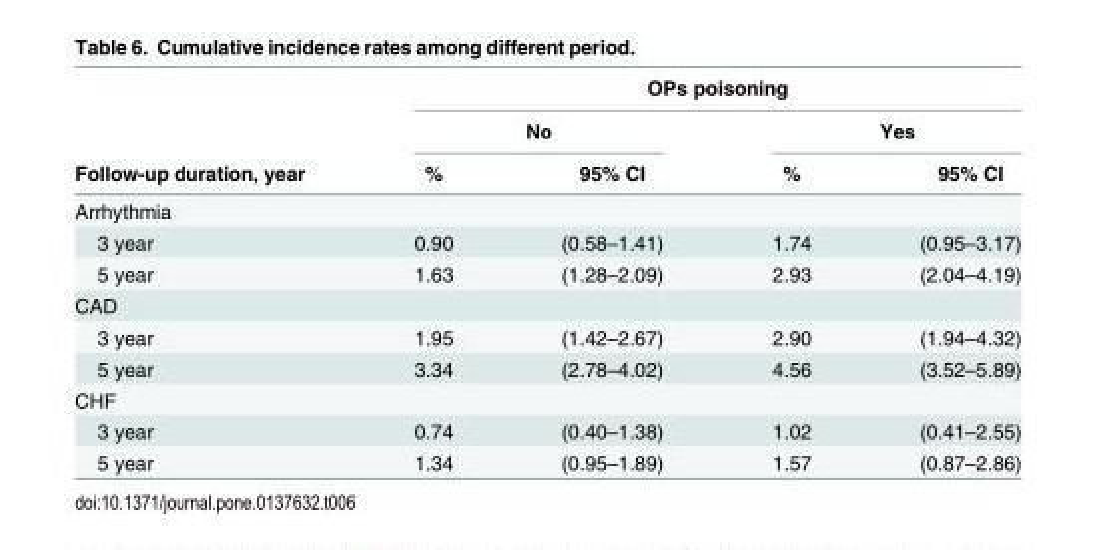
<table><thead><tr><td rowspan="3">Follow-up duration, year</td><td colspan="4">OPs poisoning</td></tr><tr><td colspan="2">No</td><td colspan="2">Yes</td></tr><tr><td>%</td><td>95% CI</td><td>%</td><td>95% CI</td></tr></thead><tbody><tr><td colspan="5">Arrhythmia</td></tr><tr><td>3 year</td><td>0.90</td><td>(0.58–1.41)</td><td>1.74</td><td>(0.95–3.17)</td></tr><tr><td>5 year</td><td>1.63</td><td>(1.28–2.09)</td><td>2.93</td><td>(2.04–4.19)</td></tr><tr><td colspan="5">CAD</td></tr><tr><td>3 year</td><td>1.95</td><td>(1.42–2.67)</td><td>2.90</td><td>(1.94–4.32)</td></tr><tr><td>5 year</td><td>3.34</td><td>(2.78–4.02)</td><td>4.56</td><td>(3.52–5.89)</td></tr><tr><td colspan="5">CHF</td></tr><tr><td>3 year</td><td>0.74</td><td>(0.40–1.38)</td><td>1.02</td><td>(0.41–2.55)</td></tr><tr><td>5 year</td><td>1.34</td><td>(0.95–1.89)</td><td>1.57</td><td>(0.87–2.86)</td></tr></tbody></table>